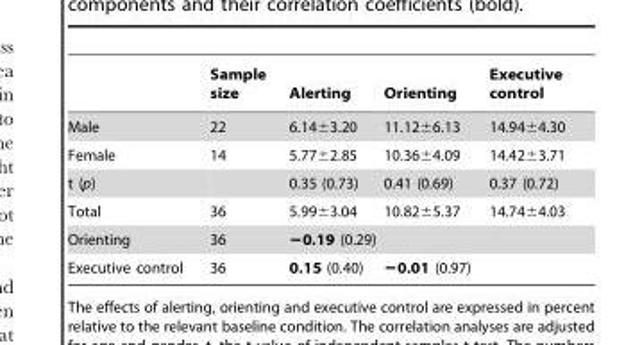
<table><thead><tr><td></td><td>Sample size</td><td>Alerting</td><td>Orienting</td><td>Executive control</td></tr></thead><tbody><tr><td>Male</td><td>22</td><td>6.14±3.20</td><td>11.12±6.13</td><td>14.94±4.30</td></tr><tr><td>Female</td><td>14</td><td>5.77±2.85</td><td>10.36±4.09</td><td>14.42±3.71</td></tr><tr><td>t (p)</td><td></td><td>0.35 (0.73)</td><td>0.41 (0.69)</td><td>0.37 (0.72)</td></tr><tr><td>Total</td><td>36</td><td>5.99±3.04</td><td>10.82±5.37</td><td>14.74±4.03</td></tr><tr><td>Orienting</td><td>36</td><td colspan="2">−0.19 (0.29)</td><td></td></tr><tr><td>Executive control</td><td>36</td><td>0.15 (0.40)</td><td>−0.01 (0.97)</td><td></td></tr></tbody></table>